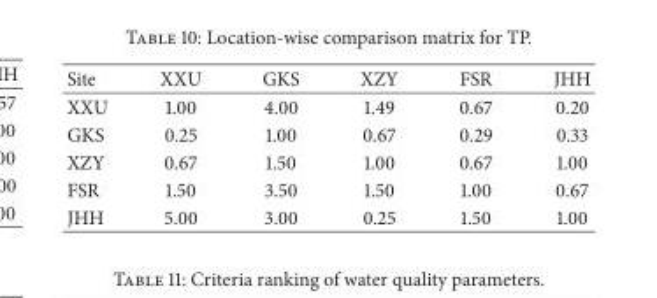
<table><thead><tr><td>Site</td><td>XXU</td><td>GKS</td><td>XZY</td><td>FSR</td><td>JHH</td></tr></thead><tbody><tr><td>XXU</td><td>1.00</td><td>4.00</td><td>1.49</td><td>0.67</td><td>0.20</td></tr><tr><td>GKS</td><td>0.25</td><td>1.00</td><td>0.67</td><td>0.29</td><td>0.33</td></tr><tr><td>XZY</td><td>0.67</td><td>1.50</td><td>1.00</td><td>0.67</td><td>1.00</td></tr><tr><td>FSR</td><td>1.50</td><td>3.50</td><td>1.50</td><td>1.00</td><td>0.67</td></tr><tr><td>JHH</td><td>5.00</td><td>3.00</td><td>0.25</td><td>1.50</td><td>1.00</td></tr></tbody></table>